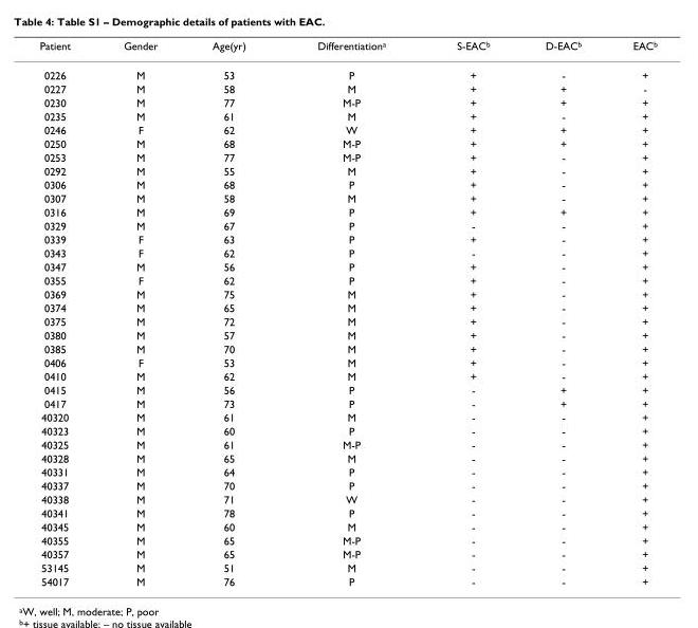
<table><thead><tr><td>Patient</td><td>Gender</td><td>Age(yr)</td><td>Differentiation<sup>a</sup></td><td>S-EAC<sup>b</sup></td><td>D-EAC<sup>b</sup></td><td>EAC<sup>b</sup></td></tr></thead><tbody><tr><td>0226</td><td>M</td><td>53</td><td>P</td><td>+</td><td>-</td><td>+</td></tr><tr><td>0227</td><td>M</td><td>58</td><td>M</td><td>+</td><td>+</td><td>-</td></tr><tr><td>0230</td><td>M</td><td>77</td><td>M-P</td><td>+</td><td>+</td><td>+</td></tr><tr><td>0235</td><td>M</td><td>61</td><td>M</td><td>+</td><td>-</td><td>+</td></tr><tr><td>0246</td><td>F</td><td>62</td><td>W</td><td>+</td><td>+</td><td>+</td></tr><tr><td>0250</td><td>M</td><td>68</td><td>M-P</td><td>+</td><td>+</td><td>+</td></tr><tr><td>0253</td><td>M</td><td>77</td><td>M-P</td><td>+</td><td>-</td><td>+</td></tr><tr><td>0292</td><td>M</td><td>55</td><td>M</td><td>+</td><td>-</td><td>+</td></tr><tr><td>0306</td><td>M</td><td>68</td><td>P</td><td>+</td><td>-</td><td>+</td></tr><tr><td>0307</td><td>M</td><td>58</td><td>M</td><td>+</td><td>-</td><td>+</td></tr><tr><td>0316</td><td>M</td><td>69</td><td>P</td><td>+</td><td>+</td><td>+</td></tr><tr><td>0329</td><td>M</td><td>67</td><td>P</td><td>-</td><td>-</td><td>+</td></tr><tr><td>0339</td><td>F</td><td>63</td><td>P</td><td>+</td><td>-</td><td>+</td></tr><tr><td>0343</td><td>F</td><td>62</td><td>P</td><td>-</td><td>-</td><td>+</td></tr><tr><td>0347</td><td>M</td><td>56</td><td>P</td><td>+</td><td>-</td><td>+</td></tr><tr><td>0355</td><td>F</td><td>62</td><td>P</td><td>+</td><td>-</td><td>+</td></tr><tr><td>0369</td><td>M</td><td>75</td><td>M</td><td>+</td><td>-</td><td>+</td></tr><tr><td>0374</td><td>M</td><td>65</td><td>M</td><td>+</td><td>-</td><td>+</td></tr><tr><td>0375</td><td>M</td><td>72</td><td>M</td><td>+</td><td>-</td><td>+</td></tr><tr><td>0380</td><td>M</td><td>57</td><td>M</td><td>+</td><td>-</td><td>+</td></tr><tr><td>0385</td><td>M</td><td>70</td><td>M</td><td>+</td><td>-</td><td>+</td></tr><tr><td>0406</td><td>F</td><td>53</td><td>M</td><td>+</td><td>-</td><td>+</td></tr><tr><td>0410</td><td>M</td><td>62</td><td>M</td><td>+</td><td>-</td><td>+</td></tr><tr><td>0415</td><td>M</td><td>56</td><td>P</td><td>-</td><td>+</td><td>+</td></tr><tr><td>0417</td><td>M</td><td>73</td><td>P</td><td>-</td><td>+</td><td>+</td></tr><tr><td>40320</td><td>M</td><td>61</td><td>M</td><td>-</td><td>-</td><td>+</td></tr><tr><td>40323</td><td>M</td><td>60</td><td>P</td><td>-</td><td>-</td><td>+</td></tr><tr><td>40325</td><td>M</td><td>61</td><td>M-P</td><td>-</td><td>-</td><td>+</td></tr><tr><td>40328</td><td>M</td><td>65</td><td>M</td><td>-</td><td>-</td><td>+</td></tr><tr><td>40331</td><td>M</td><td>64</td><td>P</td><td>-</td><td>-</td><td>+</td></tr><tr><td>40337</td><td>M</td><td>70</td><td>P</td><td>-</td><td>-</td><td>+</td></tr><tr><td>40338</td><td>M</td><td>71</td><td>W</td><td>-</td><td>-</td><td>+</td></tr><tr><td>40341</td><td>M</td><td>78</td><td>P</td><td>-</td><td>-</td><td>+</td></tr><tr><td>40345</td><td>M</td><td>60</td><td>M</td><td>-</td><td>-</td><td>+</td></tr><tr><td>40355</td><td>M</td><td>65</td><td>M-P</td><td>-</td><td>-</td><td>+</td></tr><tr><td>40357</td><td>M</td><td>65</td><td>M-P</td><td>-</td><td>-</td><td>+</td></tr><tr><td>53145</td><td>M</td><td>51</td><td>M</td><td>-</td><td>-</td><td>+</td></tr><tr><td>54017</td><td>M</td><td>76</td><td>P</td><td>-</td><td>-</td><td>+</td></tr></tbody></table>